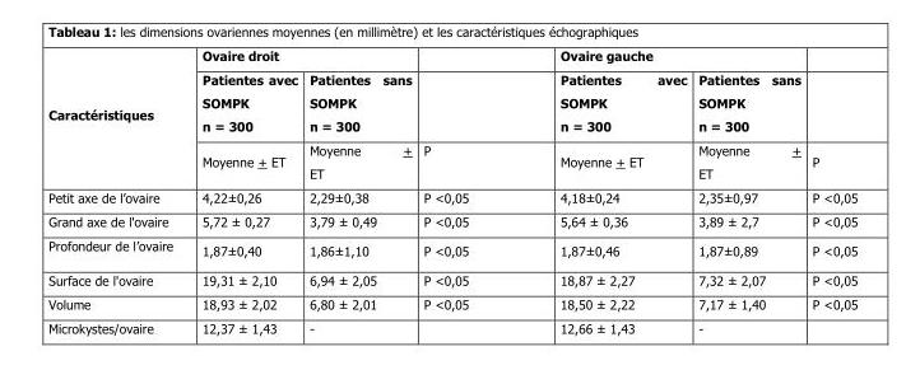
<table><thead><tr><td rowspan="3">Caractéristiques</td><td colspan="2">Ovaire droit</td><td rowspan="3">P</td><td colspan="2">Ovaire gauche</td><td rowspan="3">P</td></tr><tr><td rowspan="2">Patientes avec SOMPK n = 300 Moyenne + ET</td><td rowspan="2">Patientes sans SOMPK n = 300 Moyenne + ET</td><td rowspan="2">Patientes avec SOMPK n = 300 Moyenne + ET</td><td rowspan="2">Patientes sans SOMPK n = 300 Moyenne + ET</td></tr><tr></tr></thead><tbody><tr><td>Petit axe de l’ovaire</td><td>4,22±0,26</td><td>2,29±0,38</td><td>P &lt;0,05</td><td>4,18±0,24</td><td>2,35±0,97</td><td>P &lt;0,05</td></tr><tr><td>Grand axe de l&#x27;ovaire</td><td>5,72 ± 0,27</td><td>3,79 ± 0,49</td><td>P &lt;0,05</td><td>5,64 ± 0,36</td><td>3,89 ± 2,7</td><td>P &lt;0,05</td></tr><tr><td>Profondeur de l’ovaire</td><td>1,87±0,40</td><td>1,86±1,10</td><td>P &lt;0,05</td><td>1,87±0,46</td><td>1,87±0,89</td><td>P &lt;0,05</td></tr><tr><td>Surface de l&#x27;ovaire</td><td>19,31 ± 2,10</td><td>6,94 ± 2,05</td><td>P &lt;0,05</td><td>18,87 ± 2,27</td><td>7,32 ± 2,07</td><td>P &lt;0,05</td></tr><tr><td>Volume</td><td>18,93 ± 2,02</td><td>6,80 ± 2,01</td><td>P &lt;0,05</td><td>18,50 ± 2,22</td><td>7,17 ± 1,40</td><td>P &lt;0,05</td></tr><tr><td>Microkystes/ovaire</td><td>12,37 ± 1,43</td><td>-</td><td></td><td>12,66 ± 1,43</td><td>-</td><td></td></tr></tbody></table>